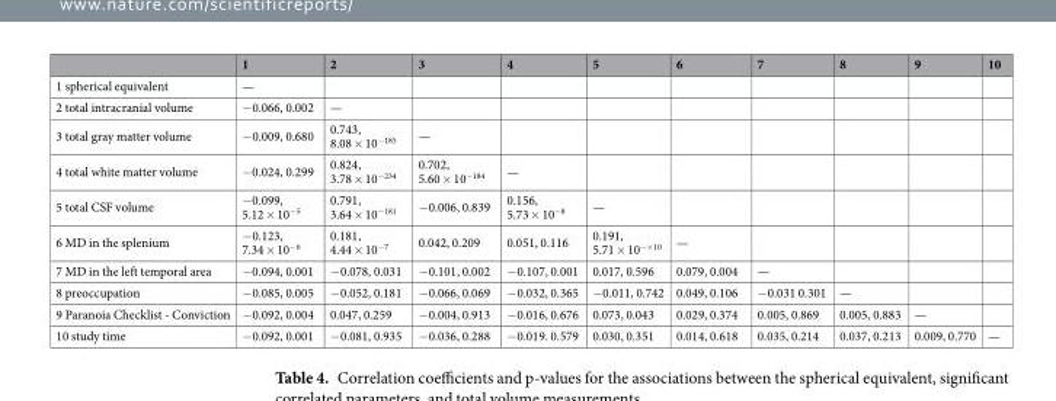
<table><thead><tr><td></td><td>1</td><td>2</td><td>3</td><td>4</td><td>5</td><td>6</td><td>7</td><td>8</td><td>9</td><td>10</td></tr></thead><tbody><tr><td>1 spherical equivalent</td><td>—</td><td></td><td></td><td></td><td></td><td></td><td></td><td></td><td></td><td></td></tr><tr><td>2 total intracranial volume</td><td>−0.066, 0.002</td><td>—</td><td></td><td></td><td></td><td></td><td></td><td></td><td></td><td></td></tr><tr><td>3 total gray matter volume</td><td>−0.009, 0.680</td><td>0.743, 8.08 × 10<sup>−185</sup></td><td>—</td><td></td><td></td><td></td><td></td><td></td><td></td><td></td></tr><tr><td>4 total white matter volume</td><td>−0.024, 0.299</td><td>0.824, 3.78 × 10<sup>−234</sup></td><td>0.702, 5.60 × 10<sup>−184</sup></td><td>—</td><td></td><td></td><td></td><td></td><td></td><td></td></tr><tr><td>5 total CSF volume</td><td>−0.099, 5.12 × 10<sup>−5</sup></td><td>0.791, 3.64 × 10<sup>−181</sup></td><td>−0.006, 0.839</td><td>0.156, 5.73 × 10<sup>−8</sup></td><td>—</td><td></td><td></td><td></td><td></td><td></td></tr><tr><td>6 MD in the splenium</td><td>−0.123, 7.34 × 10<sup>−6</sup></td><td>0.181, 4.44 × 10<sup>−7</sup></td><td>0.042, 0.209</td><td>0.051, 0.116</td><td>0.191, 5.71 × 10<sup>−×10</sup></td><td>—</td><td></td><td></td><td></td><td></td></tr><tr><td>7 MD in the left temporal area</td><td>−0.094, 0.001</td><td>−0.078, 0.031</td><td>−0.101, 0.002</td><td>−0.107, 0.001</td><td>0.017, 0.596</td><td>0.079, 0.004</td><td>—</td><td></td><td></td><td></td></tr><tr><td>8 preoccupation</td><td>−0.085, 0.005</td><td>−0.052, 0.181</td><td>−0.066, 0.069</td><td>−0.032, 0.365</td><td>−0.011, 0.742</td><td>0.049, 0.106</td><td>−0.031 0.301</td><td>—</td><td></td><td></td></tr><tr><td>9 Paranoia Checklist - Conviction</td><td>−0.092, 0.004</td><td>0.047, 0.259</td><td>−0.004, 0.913</td><td>−0.016, 0.676</td><td>0.073, 0.043</td><td>0.029, 0.374</td><td>0.005, 0.869</td><td>0.005, 0.883</td><td>—</td><td></td></tr><tr><td>10 study time</td><td>−0.092, 0.001</td><td>−0.081, 0.935</td><td>−0.036, 0.288</td><td>−0.019. 0.579</td><td>0.030, 0.351</td><td>0.014, 0.618</td><td>0.035, 0.214</td><td>0.037, 0.213</td><td>0.009, 0.770</td><td>—</td></tr></tbody></table>